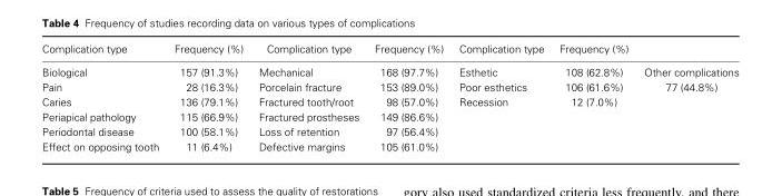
<table><thead><tr><td>Complication type</td><td>Frequency (%)</td><td>Complication type</td><td>Frequency (%)</td><td>Complication type</td><td>Frequency (%)</td><td></td></tr></thead><tbody><tr><td>Biological</td><td>157 (91.3%)</td><td>Mechanical</td><td>168 (97.7%)</td><td>Esthetic</td><td>108 (62.8%)</td><td>Other complications</td></tr><tr><td>Pain</td><td>28 (16.3%)</td><td>Porcelain fracture</td><td>153 (89.0%)</td><td>Poor esthetics</td><td>106 (61.6%)</td><td>77 (44.8%)</td></tr><tr><td>Caries</td><td>136 (79.1%)</td><td>Fractured tooth/root</td><td>98 (57.0%)</td><td>Recession</td><td>12 (7.0%)</td><td></td></tr><tr><td>Periapical pathology</td><td>115 (66.9%)</td><td>Fractured prostheses</td><td>149 (86.6%)</td><td></td><td></td><td></td></tr><tr><td>Periodontal disease</td><td>100 (58.1%)</td><td>Loss of retention</td><td>97 (56.4%)</td><td></td><td></td><td></td></tr><tr><td>Effect on opposing tooth</td><td>11 (6.4%)</td><td>Defective margins</td><td>105 (61.0%)</td><td></td><td></td><td></td></tr></tbody></table>